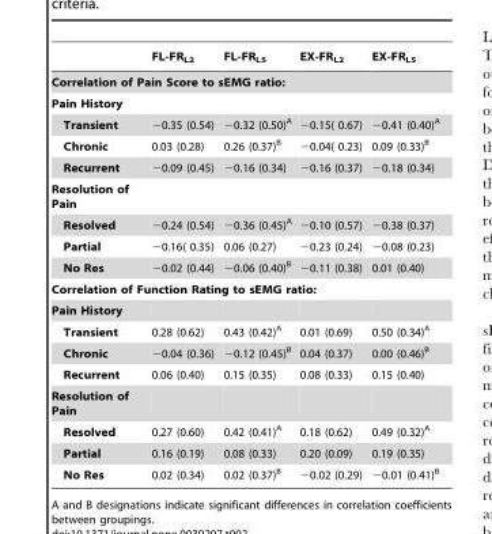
<table><thead><tr><td></td><td>FL-FR<sub>L2</sub></td><td>FL-FR<sub>L5</sub></td><td>EX-FR<sub>L2</sub></td><td>EX-FR<sub>L5</sub></td></tr></thead><tbody><tr><td colspan="5">Correlation of Pain Score to sEMG ratio:</td></tr><tr><td colspan="5">Pain History</td></tr><tr><td>Transient</td><td>−0.35 (0.54)</td><td>−0.32 (0.50)<sup>A</sup></td><td>−0.15( 0.67)</td><td>−0.41 (0.40)<sup>A</sup></td></tr><tr><td>Chronic</td><td>0.03 (0.28)</td><td>0.26 (0.37)<sup>B</sup></td><td>−0.04( 0.23)</td><td>0.09 (0.33)<sup>B</sup></td></tr><tr><td>Recurrent</td><td>−0.09 (0.45)</td><td>−0.16 (0.34)</td><td>−0.16 (0.37)</td><td>−0.18 (0.34)</td></tr><tr><td colspan="5">Resolution of Pain</td></tr><tr><td>Resolved</td><td>−0.24 (0.54)</td><td>−0.36 (0.45)<sup>A</sup></td><td>−0.10 (0.57)</td><td>−0.38 (0.37)</td></tr><tr><td>Partial</td><td>−0.16( 0.35)</td><td>0.06 (0.27)</td><td>−0.23 (0.24)</td><td>−0.08 (0.23)</td></tr><tr><td>No Res</td><td>−0.02 (0.44)</td><td>−0.06 (0.40)<sup>B</sup></td><td>−0.11 (0.38)</td><td>0.01 (0.40)</td></tr><tr><td colspan="5">Correlation of Function Rating to sEMG ratio:</td></tr><tr><td colspan="5">Pain History</td></tr><tr><td>Transient</td><td>0.28 (0.62)</td><td>0.43 (0.42)<sup>A</sup></td><td>0.01 (0.69)</td><td>0.50 (0.34)<sup>A</sup></td></tr><tr><td>Chronic</td><td>−0.04 (0.36)</td><td>−0.12 (0.45)<sup>B</sup></td><td>0.04 (0.37)</td><td>0.00 (0.46)<sup>B</sup></td></tr><tr><td>Recurrent</td><td>0.06 (0.40)</td><td>0.15 (0.35)</td><td>0.08 (0.33)</td><td>0.15 (0.40)</td></tr><tr><td colspan="5">Resolution of Pain</td></tr><tr><td>Resolved</td><td>0.27 (0.60)</td><td>0.42 (0.41)<sup>A</sup></td><td>0.18 (0.62)</td><td>0.49 (0.32)<sup>A</sup></td></tr><tr><td>Partial</td><td>0.16 (0.19)</td><td>0.08 (0.33)</td><td>0.20 (0.09)</td><td>0.19 (0.35)</td></tr><tr><td>No Res</td><td>0.02 (0.34)</td><td>0.02 (0.37)<sup>B</sup></td><td>−0.02 (0.29)</td><td>−0.01 (0.41)<sup>B</sup></td></tr></tbody></table>